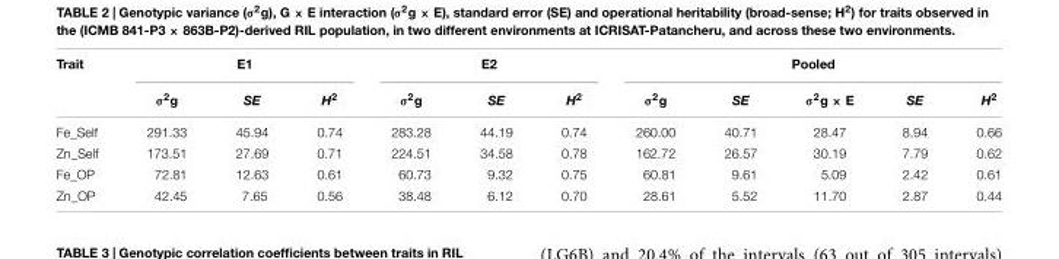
<table><thead><tr><td rowspan="2">Trait</td><td colspan="3">E1</td><td colspan="3">E2</td><td colspan="5">Pooled</td></tr><tr><td>σ<sup>2</sup>g</td><td>SE</td><td>H<sup>2</sup></td><td>σ<sup>2</sup>g</td><td>SE</td><td>H<sup>2</sup></td><td>σ<sup>2</sup>g</td><td>SE</td><td>σ<sup>2</sup>g × E</td><td>SE</td><td>H<sup>2</sup></td></tr></thead><tbody><tr><td>Fe_Self</td><td>291.33</td><td>45.94</td><td>0.74</td><td>283.28</td><td>44.19</td><td>0.74</td><td>260.00</td><td>40.71</td><td>28.47</td><td>8.94</td><td>0.66</td></tr><tr><td>Zn_Self</td><td>173.51</td><td>27.69</td><td>0.71</td><td>224.51</td><td>34.58</td><td>0.78</td><td>162.72</td><td>26.57</td><td>30.19</td><td>7.79</td><td>0.62</td></tr><tr><td>Fe_OP</td><td>72.81</td><td>12.63</td><td>0.61</td><td>60.73</td><td>9.32</td><td>0.75</td><td>60.81</td><td>9.61</td><td>5.09</td><td>2.42</td><td>0.61</td></tr><tr><td>Zn_OP</td><td>42.45</td><td>7.65</td><td>0.56</td><td>38.48</td><td>6.12</td><td>0.70</td><td>28.61</td><td>5.52</td><td>11.70</td><td>2.87</td><td>0.44</td></tr></tbody></table>